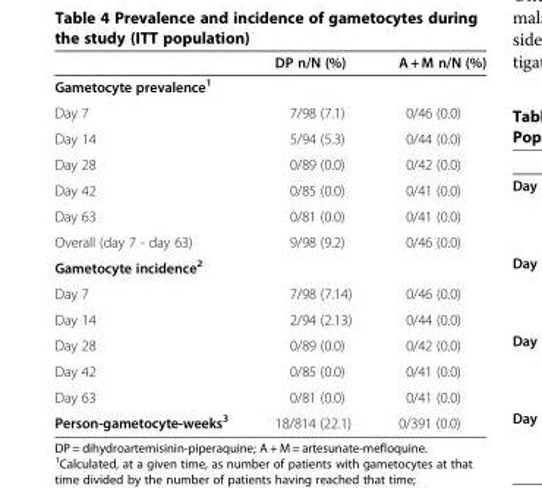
<table><thead><tr><td></td><td>DP n/N (%)</td><td>A + M n/N (%)</td></tr></thead><tbody><tr><td colspan="3">Gametocyte prevalence<sup>1</sup></td></tr><tr><td>Day 7</td><td>7/98 (7.1)</td><td>0/46 (0.0)</td></tr><tr><td>Day 14</td><td>5/94 (5.3)</td><td>0/44 (0.0)</td></tr><tr><td>Day 28</td><td>0/89 (0.0)</td><td>0/42 (0.0)</td></tr><tr><td>Day 42</td><td>0/85 (0.0)</td><td>0/41 (0.0)</td></tr><tr><td>Day 63</td><td>0/81 (0.0)</td><td>0/41 (0.0)</td></tr><tr><td>Overall (day 7 - day 63)</td><td>9/98 (9.2)</td><td>0/46 (0.0)</td></tr><tr><td colspan="3">Gametocyte incidence<sup>2</sup></td></tr><tr><td>Day 7</td><td>7/98 (7.14)</td><td>0/46 (0.0)</td></tr><tr><td>Day 14</td><td>2/94 (2.13)</td><td>0/44 (0.0)</td></tr><tr><td>Day 28</td><td>0/89 (0.0)</td><td>0/42 (0.0)</td></tr><tr><td>Day 42</td><td>0/85 (0.0)</td><td>0/41 (0.0)</td></tr><tr><td>Day 63</td><td>0/81 (0.0)</td><td>0/41 (0.0)</td></tr><tr><td>Person-gametocyte-weeks<sup>3</sup></td><td>18/814 (22.1)</td><td>0/391 (0.0)</td></tr></tbody></table>